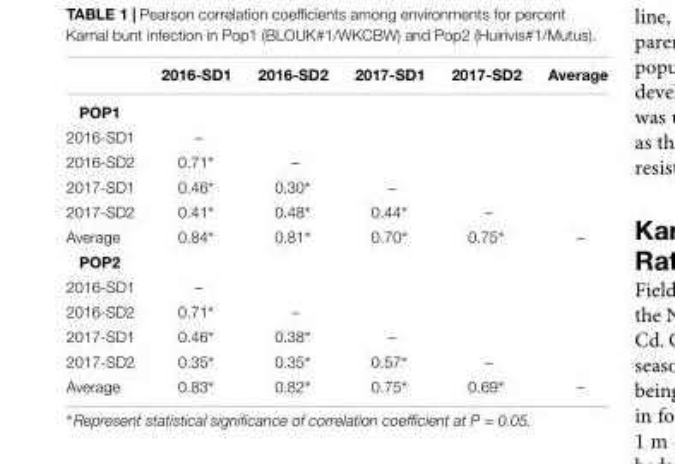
<table><thead><tr><td></td><td>2016-SD1</td><td>2016-SD2</td><td>2017-SD1</td><td>2017-SD2</td><td>Average</td></tr></thead><tbody><tr><td colspan="6">POP1</td></tr><tr><td>2016-SD1</td><td>–</td><td></td><td></td><td></td><td></td></tr><tr><td>2016-SD2</td><td>0.71∗</td><td>–</td><td></td><td></td><td></td></tr><tr><td>2017-SD1</td><td>0.46∗</td><td>0.30∗</td><td>–</td><td></td><td></td></tr><tr><td>2017-SD2</td><td>0.41∗</td><td>0.48∗</td><td>0.44∗</td><td>–</td><td></td></tr><tr><td>Average</td><td>0.84∗</td><td>0.81∗</td><td>0.70∗</td><td>0.75∗</td><td>–</td></tr><tr><td colspan="6">POP2</td></tr><tr><td>2016-SD1</td><td>–</td><td></td><td></td><td></td><td></td></tr><tr><td>2016-SD2</td><td>0.71∗</td><td>–</td><td></td><td></td><td></td></tr><tr><td>2017-SD1</td><td>0.46∗</td><td>0.38∗</td><td>–</td><td></td><td></td></tr><tr><td>2017-SD2</td><td>0.35∗</td><td>0.35∗</td><td>0.57∗</td><td>–</td><td></td></tr><tr><td>Average</td><td>0.83∗</td><td>0.82∗</td><td>0.75∗</td><td>0.69∗</td><td>–</td></tr></tbody></table>